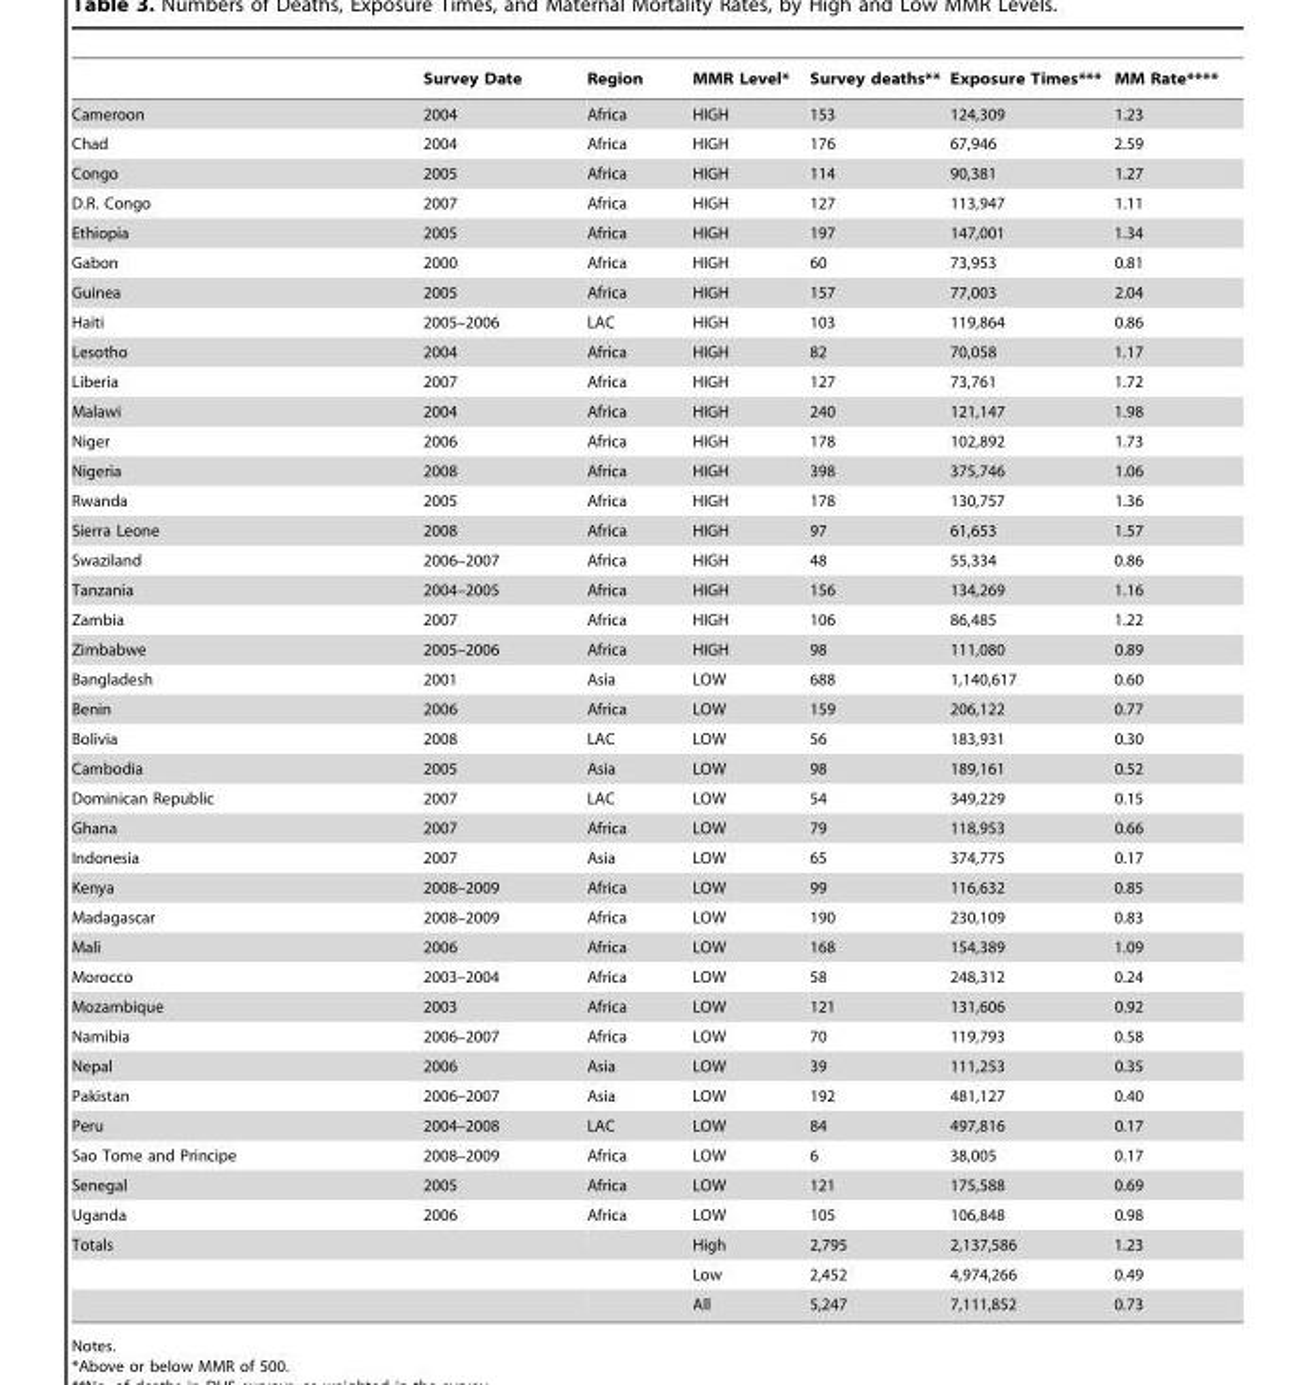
<table><thead><tr><td></td><td>Survey Date</td><td>Region</td><td>MMR Level*</td><td>Survey deaths**</td><td>Exposure Times***</td><td>MM Rate****</td></tr></thead><tbody><tr><td>Cameroon</td><td>2004</td><td>Africa</td><td>HIGH</td><td>153</td><td>124,309</td><td>1.23</td></tr><tr><td>Chad</td><td>2004</td><td>Africa</td><td>HIGH</td><td>176</td><td>67,946</td><td>2.59</td></tr><tr><td>Congo</td><td>2005</td><td>Africa</td><td>HIGH</td><td>114</td><td>90,381</td><td>1.27</td></tr><tr><td>D.R. Congo</td><td>2007</td><td>Africa</td><td>HIGH</td><td>127</td><td>113,947</td><td>1.11</td></tr><tr><td>Ethiopia</td><td>2005</td><td>Africa</td><td>HIGH</td><td>197</td><td>147,001</td><td>1.34</td></tr><tr><td>Gabon</td><td>2000</td><td>Africa</td><td>HIGH</td><td>60</td><td>73,953</td><td>0.81</td></tr><tr><td>Guinea</td><td>2005</td><td>Africa</td><td>HIGH</td><td>157</td><td>77,003</td><td>2.04</td></tr><tr><td>Haiti</td><td>2005–2006</td><td>LAC</td><td>HIGH</td><td>103</td><td>119,864</td><td>0.86</td></tr><tr><td>Lesotho</td><td>2004</td><td>Africa</td><td>HIGH</td><td>82</td><td>70,058</td><td>1.17</td></tr><tr><td>Liberia</td><td>2007</td><td>Africa</td><td>HIGH</td><td>127</td><td>73,761</td><td>1.72</td></tr><tr><td>Malawi</td><td>2004</td><td>Africa</td><td>HIGH</td><td>240</td><td>121,147</td><td>1.98</td></tr><tr><td>Niger</td><td>2006</td><td>Africa</td><td>HIGH</td><td>178</td><td>102,892</td><td>1.73</td></tr><tr><td>Nigeria</td><td>2008</td><td>Africa</td><td>HIGH</td><td>398</td><td>375,746</td><td>1.06</td></tr><tr><td>Rwanda</td><td>2005</td><td>Africa</td><td>HIGH</td><td>178</td><td>130,757</td><td>1.36</td></tr><tr><td>Sierra Leone</td><td>2008</td><td>Africa</td><td>HIGH</td><td>97</td><td>61,653</td><td>1.57</td></tr><tr><td>Swaziland</td><td>2006–2007</td><td>Africa</td><td>HIGH</td><td>48</td><td>55,334</td><td>0.86</td></tr><tr><td>Tanzania</td><td>2004–2005</td><td>Africa</td><td>HIGH</td><td>156</td><td>134,269</td><td>1.16</td></tr><tr><td>Zambia</td><td>2007</td><td>Africa</td><td>HIGH</td><td>106</td><td>86,485</td><td>1.22</td></tr><tr><td>Zimbabwe</td><td>2005–2006</td><td>Africa</td><td>HIGH</td><td>98</td><td>111,080</td><td>0.89</td></tr><tr><td>Bangladesh</td><td>2001</td><td>Asia</td><td>LOW</td><td>688</td><td>1,140,617</td><td>0.60</td></tr><tr><td>Benin</td><td>2006</td><td>Africa</td><td>LOW</td><td>159</td><td>206,122</td><td>0.77</td></tr><tr><td>Bolivia</td><td>2008</td><td>LAC</td><td>LOW</td><td>56</td><td>183,931</td><td>0.30</td></tr><tr><td>Cambodia</td><td>2005</td><td>Asia</td><td>LOW</td><td>98</td><td>189,161</td><td>0.52</td></tr><tr><td>Dominican Republic</td><td>2007</td><td>LAC</td><td>LOW</td><td>54</td><td>349,229</td><td>0.15</td></tr><tr><td>Ghana</td><td>2007</td><td>Africa</td><td>LOW</td><td>79</td><td>118,953</td><td>0.66</td></tr><tr><td>Indonesia</td><td>2007</td><td>Asia</td><td>LOW</td><td>65</td><td>374,775</td><td>0.17</td></tr><tr><td>Kenya</td><td>2008–2009</td><td>Africa</td><td>LOW</td><td>99</td><td>116,632</td><td>0.85</td></tr><tr><td>Madagascar</td><td>2008–2009</td><td>Africa</td><td>LOW</td><td>190</td><td>230,109</td><td>0.83</td></tr><tr><td>Mali</td><td>2006</td><td>Africa</td><td>LOW</td><td>168</td><td>154,389</td><td>1.09</td></tr><tr><td>Morocco</td><td>2003–2004</td><td>Africa</td><td>LOW</td><td>58</td><td>248,312</td><td>0.24</td></tr><tr><td>Mozambique</td><td>2003</td><td>Africa</td><td>LOW</td><td>121</td><td>131,606</td><td>0.92</td></tr><tr><td>Namibia</td><td>2006–2007</td><td>Africa</td><td>LOW</td><td>70</td><td>119,793</td><td>0.58</td></tr><tr><td>Nepal</td><td>2006</td><td>Asia</td><td>LOW</td><td>39</td><td>111,253</td><td>0.35</td></tr><tr><td>Pakistan</td><td>2006–2007</td><td>Asia</td><td>LOW</td><td>192</td><td>481,127</td><td>0.40</td></tr><tr><td>Peru</td><td>2004–2008</td><td>LAC</td><td>LOW</td><td>84</td><td>497,816</td><td>0.17</td></tr><tr><td>Sao Tome and Principe</td><td>2008–2009</td><td>Africa</td><td>LOW</td><td>6</td><td>38,005</td><td>0.17</td></tr><tr><td>Senegal</td><td>2005</td><td>Africa</td><td>LOW</td><td>121</td><td>175,588</td><td>0.69</td></tr><tr><td>Uganda</td><td>2006</td><td>Africa</td><td>LOW</td><td>105</td><td>106,848</td><td>0.98</td></tr><tr><td rowspan="3">Totals</td><td></td><td></td><td>High</td><td>2,795</td><td>2,137,586</td><td>1.23</td></tr><tr><td></td><td></td><td>Low</td><td>2,452</td><td>4,974,266</td><td>0.49</td></tr><tr><td></td><td></td><td>All</td><td>5,247</td><td>7,111,852</td><td>0.73</td></tr></tbody></table>